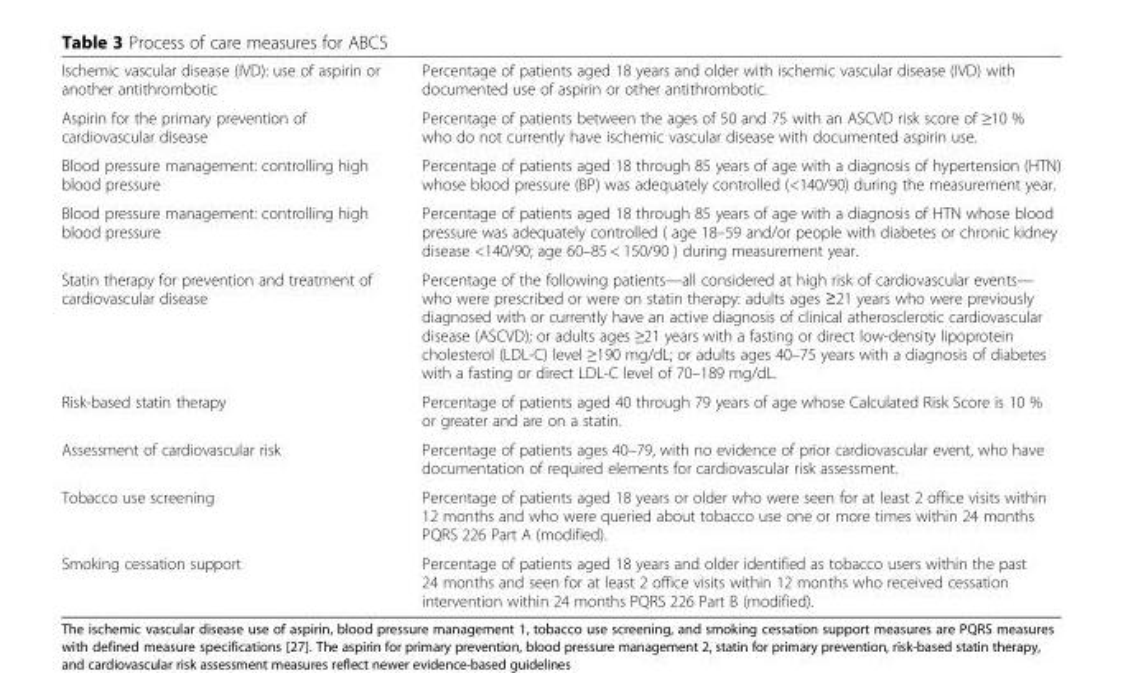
<table><tbody><tr><td>Ischemic vascular disease (IVD): use of aspirin or another antithrombotic</td><td>Percentage of patients aged 18 years and older with ischemic vascular disease (IVD) with documented use of aspirin or other antithrombotic.</td></tr><tr><td>Aspirin for the primary prevention of cardiovascular disease</td><td>Percentage of patients between the ages of 50 and 75 with an ASCVD risk score of ≥10 % who do not currently have ischemic vascular disease with documented aspirin use.</td></tr><tr><td>Blood pressure management: controlling high blood pressure</td><td>Percentage of patients aged 18 through 85 years of age with a diagnosis of hypertension (HTN) whose blood pressure (BP) was adequately controlled (&lt;140/90) during the measurement year.</td></tr><tr><td>Blood pressure management: controlling high blood pressure</td><td>Percentage of patients aged 18 through 85 years of age with a diagnosis of HTN whose blood pressure was adequately controlled ( age 18–59 and/or people with diabetes or chronic kidney disease &lt;140/90; age 60–85 &lt; 150/90 ) during measurement year.</td></tr><tr><td>Statin therapy for prevention and treatment of cardiovascular disease</td><td>Percentage of the following patients—all considered at high risk of cardiovascular events— who were prescribed or were on statin therapy: adults ages ≥21 years who were previously diagnosed with or currently have an active diagnosis of clinical atherosclerotic cardiovascular disease (ASCVD); or adults ages ≥21 years with a fasting or direct low-density lipoprotein cholesterol (LDL-C) level ≥190 mg/dL; or adults ages 40–75 years with a diagnosis of diabetes with a fasting or direct LDL-C level of 70–189 mg/dL.</td></tr><tr><td>Risk-based statin therapy</td><td>Percentage of patients aged 40 through 79 years of age whose Calculated Risk Score is 10 % or greater and are on a statin.</td></tr><tr><td>Assessment of cardiovascular risk</td><td>Percentage of patients ages 40–79, with no evidence of prior cardiovascular event, who have documentation of required elements for cardiovascular risk assessment.</td></tr><tr><td>Tobacco use screening</td><td>Percentage of patients aged 18 years or older who were seen for at least 2 office visits within 12 months and who were queried about tobacco use one or more times within 24 months PQRS 226 Part A (modified).</td></tr><tr><td>Smoking cessation support</td><td>Percentage of patients aged 18 years and older identified as tobacco users within the past 24 months and seen for at least 2 office visits within 12 months who received cessation intervention within 24 months PQRS 226 Part B (modified).</td></tr></tbody></table>